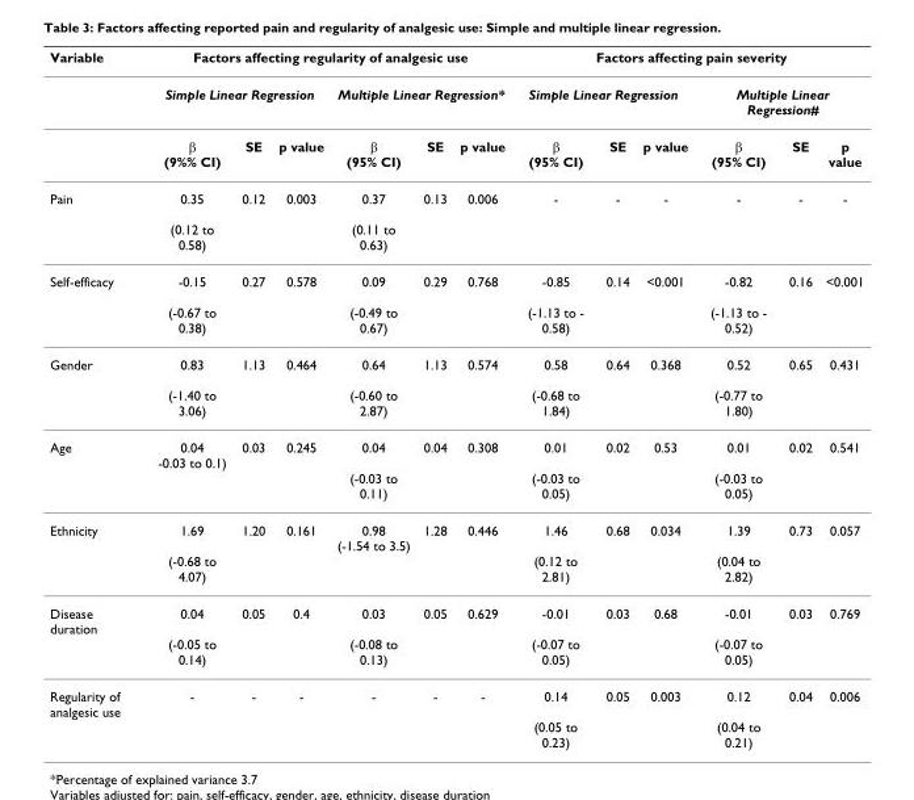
<table><thead><tr><td rowspan="3">Variable</td><td colspan="6">Factors affecting regularity of analgesic use</td><td colspan="6">Factors affecting pain severity</td></tr><tr><td colspan="3">Simple Linear Regression</td><td colspan="3">Multiple Linear Regression*</td><td colspan="3">Simple Linear Regression</td><td colspan="3">Multiple Linear Regression#</td></tr><tr><td>β (9%% CI)</td><td>SE</td><td>p value</td><td>β (95% CI)</td><td>SE</td><td>p value</td><td>β (95% CI)</td><td>SE</td><td>p value</td><td>β (95% CI)</td><td>SE</td><td>p value</td></tr></thead><tbody><tr><td>Pain</td><td>0.35 (0.12 to 0.58)</td><td>0.12</td><td>0.003</td><td>0.37 (0.11 to 0.63)</td><td>0.13</td><td>0.006</td><td>-</td><td>-</td><td>-</td><td>-</td><td>-</td><td>-</td></tr><tr><td>Self-efficacy</td><td>-0.15 (-0.67 to 0.38)</td><td>0.27</td><td>0.578</td><td>0.09 (-0.49 to 0.67)</td><td>0.29</td><td>0.768</td><td>-0.85 (-1.13 to - 0.58)</td><td>0.14</td><td>&lt;0.001</td><td>-0.82 (-1.13 to - 0.52)</td><td>0.16</td><td>&lt;0.001</td></tr><tr><td>Gender</td><td>0.83 (-1.40 to 3.06)</td><td>1.13</td><td>0.464</td><td>0.64 (-0.60 to 2.87)</td><td>1.13</td><td>0.574</td><td>0.58 (-0.68 to 1.84)</td><td>0.64</td><td>0.368</td><td>0.52 (-0.77 to 1.80)</td><td>0.65</td><td>0.431</td></tr><tr><td>Age</td><td>0.04 -0.03 to 0.1)</td><td>0.03</td><td>0.245</td><td>0.04 (-0.03 to 0.11)</td><td>0.04</td><td>0.308</td><td>0.01 (-0.03 to 0.05)</td><td>0.02</td><td>0.53</td><td>0.01 (-0.03 to 0.05)</td><td>0.02</td><td>0.541</td></tr><tr><td>Ethnicity</td><td>1.69 (-0.68 to 4.07)</td><td>1.20</td><td>0.161</td><td>0.98 (-1.54 to 3.5)</td><td>1.28</td><td>0.446</td><td>1.46 (0.12 to 2.81)</td><td>0.68</td><td>0.034</td><td>1.39 (0.04 to 2.82)</td><td>0.73</td><td>0.057</td></tr><tr><td>Disease duration</td><td>0.04 (-0.05 to 0.14)</td><td>0.05</td><td>0.4</td><td>0.03 (-0.08 to 0.13)</td><td>0.05</td><td>0.629</td><td>-0.01 (-0.07 to 0.05)</td><td>0.03</td><td>0.68</td><td>-0.01 (-0.07 to 0.05)</td><td>0.03</td><td>0.769</td></tr><tr><td>Regularity of analgesic use</td><td>-</td><td>-</td><td>-</td><td>-</td><td>-</td><td>-</td><td>0.14 (0.05 to 0.23)</td><td>0.05</td><td>0.003</td><td>0.12 (0.04 to 0.21)</td><td>0.04</td><td>0.006</td></tr></tbody></table>